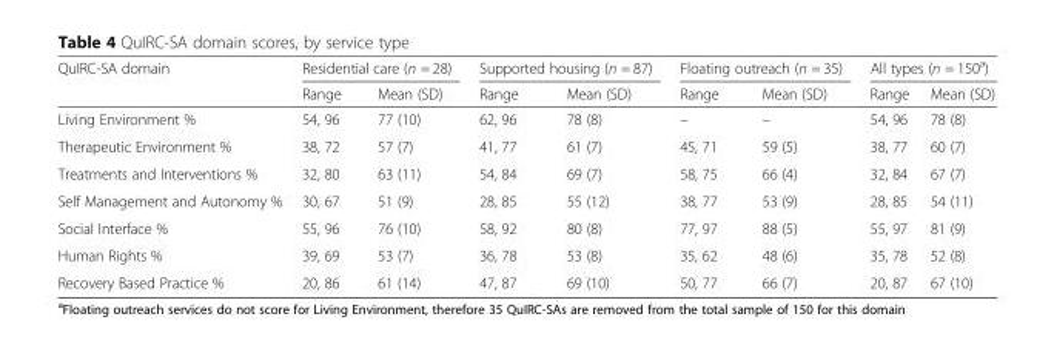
<table><thead><tr><td rowspan="2">QuIRC-SA domain</td><td colspan="2">Residential care (n = 28)</td><td colspan="2">Supported housing (n = 87)</td><td colspan="2">Floating outreach (n = 35)</td><td colspan="2">All types (n = 150<sup>a</sup>)</td></tr><tr><td>Range</td><td>Mean (SD)</td><td>Range</td><td>Mean (SD)</td><td>Range</td><td>Mean (SD)</td><td>Range</td><td>Mean (SD)</td></tr></thead><tbody><tr><td>Living Environment %</td><td>54, 96</td><td>77 (10)</td><td>62, 96</td><td>78 (8)</td><td>–</td><td>–</td><td>54, 96</td><td>78 (8)</td></tr><tr><td>Therapeutic Environment %</td><td>38, 72</td><td>57 (7)</td><td>41, 77</td><td>61 (7)</td><td>45, 71</td><td>59 (5)</td><td>38, 77</td><td>60 (7)</td></tr><tr><td>Treatments and Interventions %</td><td>32, 80</td><td>63 (11)</td><td>54, 84</td><td>69 (7)</td><td>58, 75</td><td>66 (4)</td><td>32, 84</td><td>67 (7)</td></tr><tr><td>Self Management and Autonomy %</td><td>30, 67</td><td>51 (9)</td><td>28, 85</td><td>55 (12)</td><td>38, 77</td><td>53 (9)</td><td>28, 85</td><td>54 (11)</td></tr><tr><td>Social Interface %</td><td>55, 96</td><td>76 (10)</td><td>58, 92</td><td>80 (8)</td><td>77, 97</td><td>88 (5)</td><td>55, 97</td><td>81 (9)</td></tr><tr><td>Human Rights %</td><td>39, 69</td><td>53 (7)</td><td>36, 78</td><td>53 (8)</td><td>35, 62</td><td>48 (6)</td><td>35, 78</td><td>52 (8)</td></tr><tr><td>Recovery Based Practice %</td><td>20, 86</td><td>61 (14)</td><td>47, 87</td><td>69 (10)</td><td>50, 77</td><td>66 (7)</td><td>20, 87</td><td>67 (10)</td></tr></tbody></table>